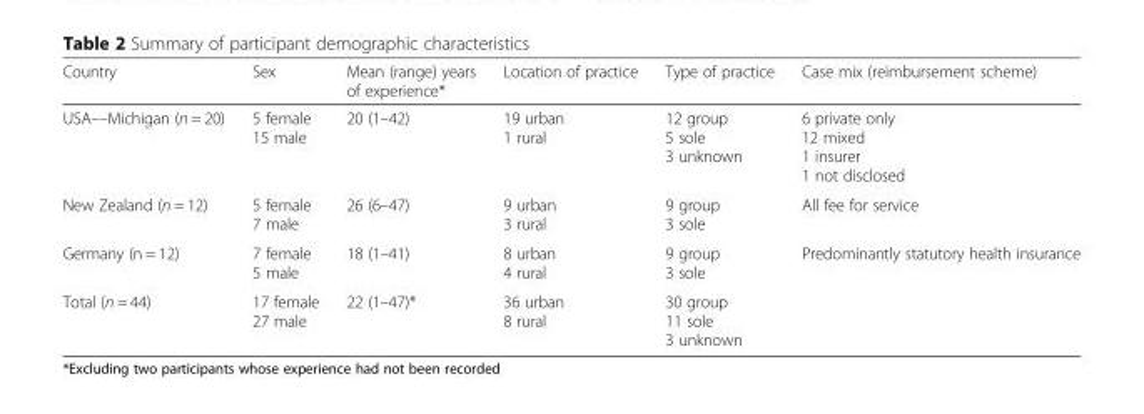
<table><thead><tr><td>Country</td><td>Sex</td><td>Mean (range) years of experience*</td><td>Location of practice</td><td>Type of practice</td><td>Case mix (reimbursement scheme)</td></tr></thead><tbody><tr><td>USA––Michigan (n = 20)</td><td>5 female 15 male</td><td>20 (1–42)</td><td>19 urban 1 rural</td><td>12 group 5 sole 3 unknown</td><td>6 private only 12 mixed 1 insurer 1 not disclosed</td></tr><tr><td>New Zealand (n = 12)</td><td>5 female 7 male</td><td>26 (6–47)</td><td>9 urban 3 rural</td><td>9 group 3 sole</td><td>All fee for service</td></tr><tr><td>Germany (n = 12)</td><td>7 female 5 male</td><td>18 (1–41)</td><td>8 urban 4 rural</td><td>9 group 3 sole</td><td>Predominantly statutory health insurance</td></tr><tr><td>Total (n = 44)</td><td>17 female 27 male</td><td>22 (1–47)*</td><td>36 urban 8 rural</td><td>30 group 11 sole 3 unknown</td><td></td></tr></tbody></table>